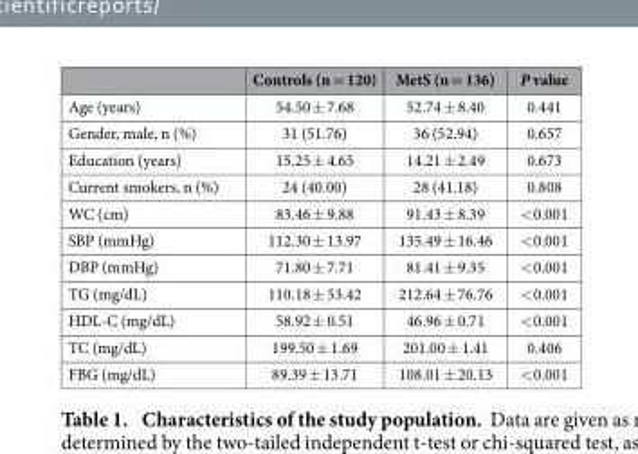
<table><thead><tr><td></td><td>Controls (n = 120)</td><td>MetS (n = 136)</td><td>P value</td></tr></thead><tbody><tr><td>Age (years)</td><td>54.50 ± 7.68</td><td>52.74 ± 8.40</td><td>0.441</td></tr><tr><td>Gender, male, n (%)</td><td>31 (51.76)</td><td>36 (52.94)</td><td>0.657</td></tr><tr><td>Education (years)</td><td>15.25 ± 4.65</td><td>14.21 ± 2.49</td><td>0.673</td></tr><tr><td>Current smokers, n (%)</td><td>24 (40.00)</td><td>28 (41.18)</td><td>0.808</td></tr><tr><td>WC (cm)</td><td>83.46 ± 9.88</td><td>91.43 ± 8.39</td><td>&lt; 0.001</td></tr><tr><td>SBP (mmHg)</td><td>112.30 ± 13.97</td><td>135.49 ± 16.46</td><td>&lt; 0.001</td></tr><tr><td>DBP (mmHg)</td><td>71.80 ± 7.71</td><td>81.41 ± 9.35</td><td>&lt; 0.001</td></tr><tr><td>TG (mg/dL)</td><td>110.18 ± 53.42</td><td>212.64 ± 76.76</td><td>&lt; 0.001</td></tr><tr><td>HDL-C (mg/dL)</td><td>58.92 ± 0.51</td><td>46.96 ± 0.71</td><td>&lt; 0.001</td></tr><tr><td>TC (mg/dL)</td><td>199.50 ± 1.69</td><td>201.00 ± 1.41</td><td>0.406</td></tr><tr><td>FBG (mg/dL)</td><td>89.39 ± 13.71</td><td>108.01 ± 20.13</td><td>&lt; 0.001</td></tr></tbody></table>